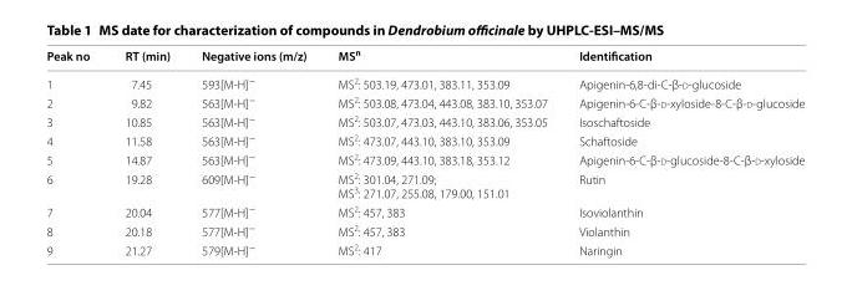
<table><thead><tr><td>Peak no</td><td>RT (min)</td><td>Negative ions (m/z)</td><td>MS<sup>n</sup></td><td>Identification</td></tr></thead><tbody><tr><td>1</td><td>7.45</td><td>593[M-H]<sup>−</sup></td><td>MS<sup>2</sup>: 503.19, 473.01, 383.11, 353.09</td><td>Apigenin-6,8-di-C-β-d-glucoside</td></tr><tr><td>2</td><td>9.82</td><td>563[M-H]<sup>−</sup></td><td>MS<sup>2</sup>: 503.08, 473.04, 443.08, 383.10, 353.07</td><td>Apigenin-6-C-β-d-xyloside-8-C-β-d-glucoside</td></tr><tr><td>3</td><td>10.85</td><td>563[M-H]<sup>−</sup></td><td>MS<sup>2</sup>: 503.07, 473.03, 443.10, 383.06, 353.05</td><td>Isoschaftoside</td></tr><tr><td>4</td><td>11.58</td><td>563[M-H]<sup>−</sup></td><td>MS<sup>2</sup>: 473.07, 443.10, 383.10, 353.09</td><td>Schaftoside</td></tr><tr><td>5</td><td>14.87</td><td>563[M-H]<sup>−</sup></td><td>MS<sup>2</sup>: 473.09, 443.10, 383.18, 353.12</td><td>Apigenin-6-C-β-d-glucoside-8-C-β-d-xyloside</td></tr><tr><td>6</td><td>19.28</td><td>609[M-H]<sup>−</sup></td><td>MS<sup>2</sup>: 301.04, 271.09; MS<sup>3</sup>: 271.07, 255.08, 179.00, 151.01</td><td>Rutin</td></tr><tr><td>7</td><td>20.04</td><td>577[M-H]<sup>−</sup></td><td>MS<sup>2</sup>: 457, 383</td><td>Isoviolanthin</td></tr><tr><td>8</td><td>20.18</td><td>577[M-H]<sup>−</sup></td><td>MS<sup>2</sup>: 457, 383</td><td>Violanthin</td></tr><tr><td>9</td><td>21.27</td><td>579[M-H]<sup>−</sup></td><td>MS<sup>2</sup>: 417</td><td>Naringin</td></tr></tbody></table>